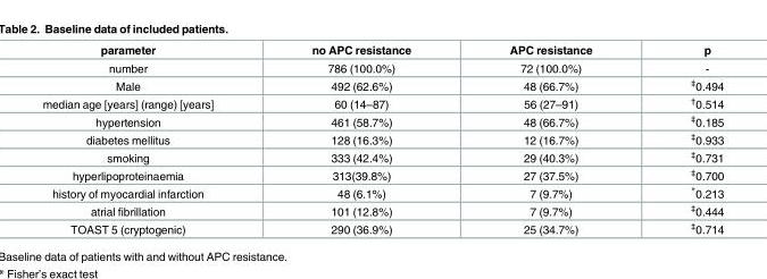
<table><thead><tr><td>parameter</td><td>no APC resistance</td><td>APC resistance</td><td>p</td></tr></thead><tbody><tr><td>number</td><td>786 (100.0%)</td><td>72 (100.0%)</td><td>-</td></tr><tr><td>Male</td><td>492 (62.6%)</td><td>48 (66.7%)</td><td><sup>‡</sup>0.494</td></tr><tr><td>median age [years] (range) [years]</td><td>60 (14–87)</td><td>56 (27–91)</td><td><sup>†</sup>0.514</td></tr><tr><td>hypertension</td><td>461 (58.7%)</td><td>48 (66.7%)</td><td><sup>‡</sup>0.185</td></tr><tr><td>diabetes mellitus</td><td>128 (16.3%)</td><td>12 (16.7%)</td><td><sup>‡</sup>0.933</td></tr><tr><td>smoking</td><td>333 (42.4%)</td><td>29 (40.3%)</td><td><sup>‡</sup>0.731</td></tr><tr><td>hyperlipoproteinaemia</td><td>313(39.8%)</td><td>27 (37.5%)</td><td><sup>‡</sup>0.700</td></tr><tr><td>history of myocardial infarction</td><td>48 (6.1%)</td><td>7 (9.7%)</td><td>*0.213</td></tr><tr><td>atrial fibrillation</td><td>101 (12.8%)</td><td>7 (9.7%)</td><td><sup>‡</sup>0.444</td></tr><tr><td>TOAST 5 (cryptogenic)</td><td>290 (36.9%)</td><td>25 (34.7%)</td><td><sup>‡</sup>0.714</td></tr></tbody></table>